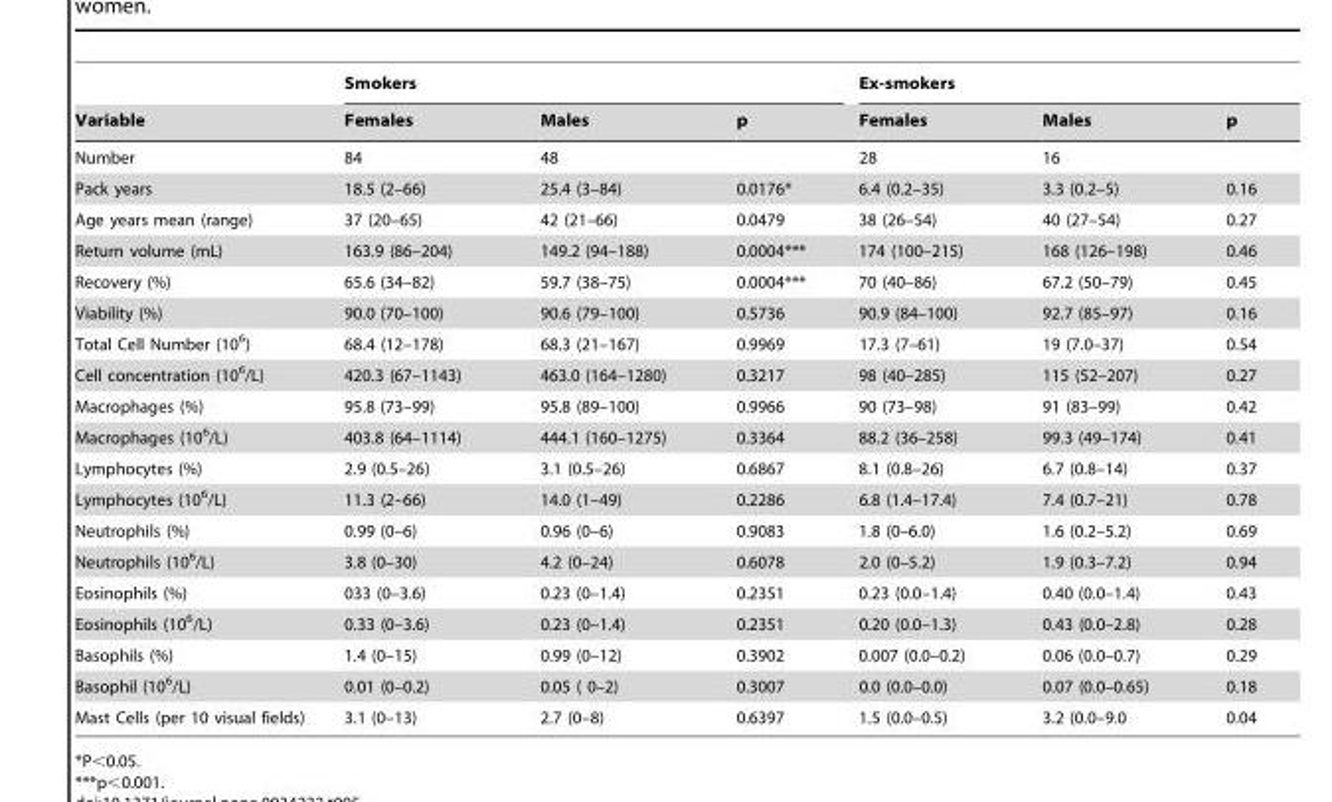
<table><thead><tr><td rowspan="2">Variable</td><td colspan="3">Smokers</td><td colspan="3">Ex-smokers</td></tr><tr><td>Females</td><td>Males</td><td>p</td><td>Females</td><td>Males</td><td>p</td></tr></thead><tbody><tr><td>Number</td><td>84</td><td>48</td><td></td><td>28</td><td>16</td><td></td></tr><tr><td>Pack years</td><td>18.5 (2–66)</td><td>25.4 (3–84)</td><td>0.0176*</td><td>6.4 (0.2–35)</td><td>3.3 (0.2–5)</td><td>0.16</td></tr><tr><td>Age years mean (range)</td><td>37 (20–65)</td><td>42 (21–66)</td><td>0.0479</td><td>38 (26–54)</td><td>40 (27–54)</td><td>0.27</td></tr><tr><td>Return volume (mL)</td><td>163.9 (86–204)</td><td>149.2 (94–188)</td><td>0.0004***</td><td>174 (100–215)</td><td>168 (126–198)</td><td>0.46</td></tr><tr><td>Recovery (%)</td><td>65.6 (34–82)</td><td>59.7 (38–75)</td><td>0.0004***</td><td>70 (40–86)</td><td>67.2 (50–79)</td><td>0.45</td></tr><tr><td>Viability (%)</td><td>90.0 (70–100)</td><td>90.6 (79–100)</td><td>0.5736</td><td>90.9 (84–100)</td><td>92.7 (85–97)</td><td>0.16</td></tr><tr><td>Total Cell Number (10<sup>6</sup>)</td><td>68.4 (12–178)</td><td>68.3 (21–167)</td><td>0.9969</td><td>17.3 (7–61)</td><td>19 (7.0–37)</td><td>0.54</td></tr><tr><td>Cell concentration (10<sup>6</sup>/L)</td><td>420.3 (67–1143)</td><td>463.0 (164–1280)</td><td>0.3217</td><td>98 (40–285)</td><td>115 (52–207)</td><td>0.27</td></tr><tr><td>Macrophages (%)</td><td>95.8 (73–99)</td><td>95.8 (89–100)</td><td>0.9966</td><td>90 (73–98)</td><td>91 (83–99)</td><td>0.42</td></tr><tr><td>Macrophages (10<sup>6</sup>/L)</td><td>403.8 (64–1114)</td><td>444.1 (160–1275)</td><td>0.3364</td><td>88.2 (36–258)</td><td>99.3 (49–174)</td><td>0.41</td></tr><tr><td>Lymphocytes (%)</td><td>2.9 (0.5–26)</td><td>3.1 (0.5–26)</td><td>0.6867</td><td>8.1 (0.8–26)</td><td>6.7 (0.8–14)</td><td>0.37</td></tr><tr><td>Lymphocytes (10<sup>6</sup>/L)</td><td>11.3 (2–66)</td><td>14.0 (1–49)</td><td>0.2286</td><td>6.8 (1.4–17.4)</td><td>7.4 (0.7–21)</td><td>0.78</td></tr><tr><td>Neutrophils (%)</td><td>0.99 (0–6)</td><td>0.96 (0–6)</td><td>0.9083</td><td>1.8 (0–6.0)</td><td>1.6 (0.2–5.2)</td><td>0.69</td></tr><tr><td>Neutrophils (10<sup>6</sup>/L)</td><td>3.8 (0–30)</td><td>4.2 (0–24)</td><td>0.6078</td><td>2.0 (0–5.2)</td><td>1.9 (0.3–7.2)</td><td>0.94</td></tr><tr><td>Eosinophils (%)</td><td>033 (0–3.6)</td><td>0.23 (0–1.4)</td><td>0.2351</td><td>0.23 (0.0–1.4)</td><td>0.40 (0.0–1.4)</td><td>0.43</td></tr><tr><td>Eosinophils (10<sup>6</sup>/L)</td><td>0.33 (0–3.6)</td><td>0.23 (0–1.4)</td><td>0.2351</td><td>0.20 (0.0–1.3)</td><td>0.43 (0.0–2.8)</td><td>0.28</td></tr><tr><td>Basophils (%)</td><td>1.4 (0–15)</td><td>0.99 (0–12)</td><td>0.3902</td><td>0.007 (0.0–0.2)</td><td>0.06 (0.0–0.7)</td><td>0.29</td></tr><tr><td>Basophil (10<sup>6</sup>/L)</td><td>0.01 (0–0.2)</td><td>0.05 ( 0–2)</td><td>0.3007</td><td>0.0 (0.0–0.0)</td><td>0.07 (0.0–0.65)</td><td>0.18</td></tr><tr><td>Mast Cells (per 10 visual fields)</td><td>3.1 (0–13)</td><td>2.7 (0–8)</td><td>0.6397</td><td>1.5 (0.0–0.5)</td><td>3.2 (0.0–9.0</td><td>0.04</td></tr></tbody></table>